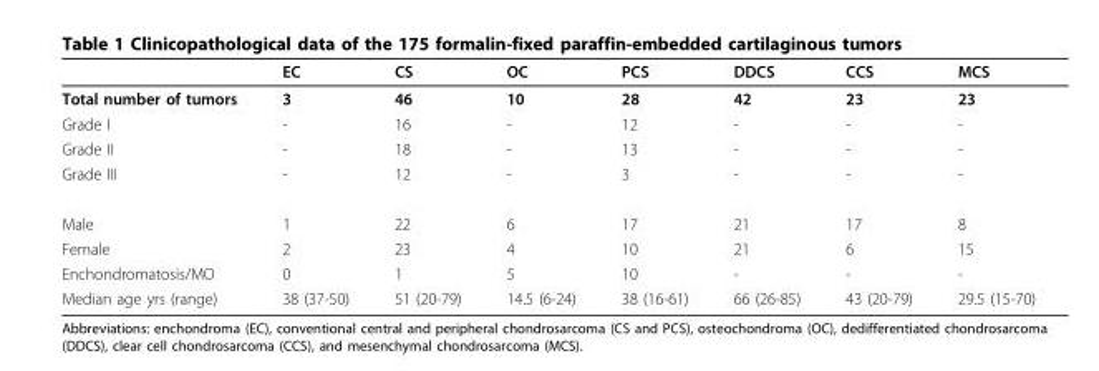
<table><thead><tr><td></td><td>EC</td><td>CS</td><td>OC</td><td>PCS</td><td>DDCS</td><td>CCS</td><td>MCS</td></tr></thead><tbody><tr><td>Total number of tumors</td><td>3</td><td>46</td><td>10</td><td>28</td><td>42</td><td>23</td><td>23</td></tr><tr><td>Grade I</td><td>-</td><td>16</td><td>-</td><td>12</td><td>-</td><td>-</td><td>-</td></tr><tr><td>Grade II</td><td>-</td><td>18</td><td>-</td><td>13</td><td>-</td><td>-</td><td>-</td></tr><tr><td>Grade III</td><td>-</td><td>12</td><td>-</td><td>3</td><td>-</td><td>-</td><td>-</td></tr><tr><td>Male</td><td>1</td><td>22</td><td>6</td><td>17</td><td>21</td><td>17</td><td>8</td></tr><tr><td>Female</td><td>2</td><td>23</td><td>4</td><td>10</td><td>21</td><td>6</td><td>15</td></tr><tr><td>Enchondromatosis/MO</td><td>0</td><td>1</td><td>5</td><td>10</td><td>-</td><td>-</td><td>-</td></tr><tr><td>Median age yrs (range)</td><td>38 (37-50)</td><td>51 (20-79)</td><td>14.5 (6-24)</td><td>38 (16-61)</td><td>66 (26-85)</td><td>43 (20-79)</td><td>29.5 (15-70)</td></tr></tbody></table>